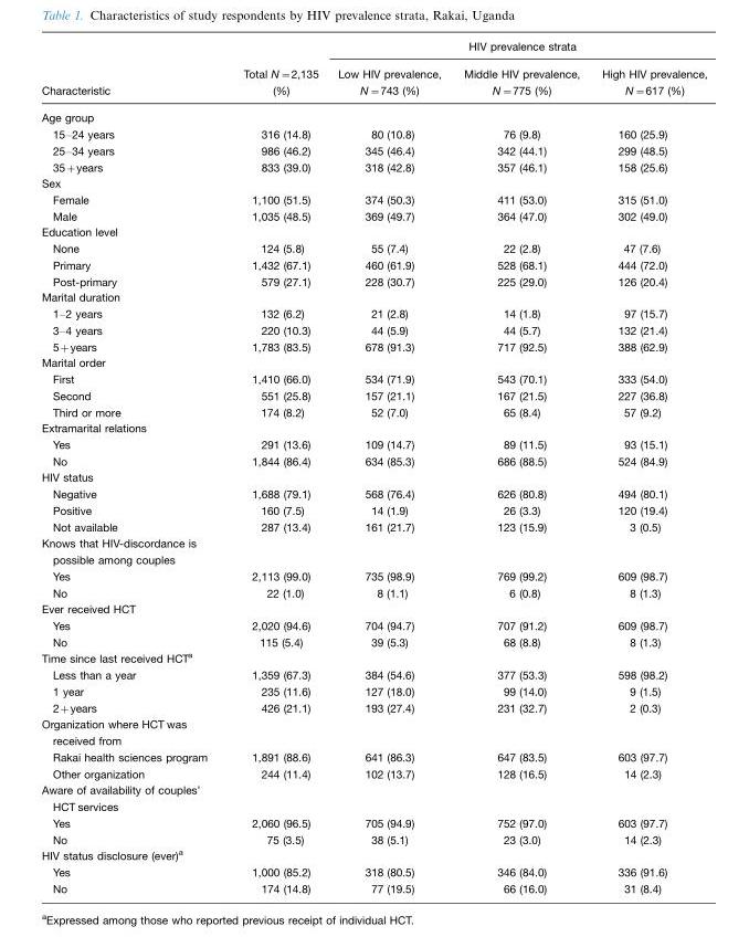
<table><thead><tr><td rowspan="2">Characteristic</td><td rowspan="2">Total N=2,135 (%)</td><td colspan="3">HIV prevalence strata</td></tr><tr><td>Low HIV prevalence, N=743 (%)</td><td>Middle HIV prevalence, N=775 (%)</td><td>High HIV prevalence, N=617 (%)</td></tr></thead><tbody><tr><td colspan="5">Age group</td></tr><tr><td>15–24 years</td><td>316 (14.8)</td><td>80 (10.8)</td><td>76 (9.8)</td><td>160 (25.9)</td></tr><tr><td>25–34 years</td><td>986 (46.2)</td><td>345 (46.4)</td><td>342 (44.1)</td><td>299 (48.5)</td></tr><tr><td>35+years</td><td>833 (39.0)</td><td>318 (42.8)</td><td>357 (46.1)</td><td>158 (25.6)</td></tr><tr><td colspan="5">Sex</td></tr><tr><td>Female</td><td>1,100 (51.5)</td><td>374 (50.3)</td><td>411 (53.0)</td><td>315 (51.0)</td></tr><tr><td>Male</td><td>1,035 (48.5)</td><td>369 (49.7)</td><td>364 (47.0)</td><td>302 (49.0)</td></tr><tr><td colspan="5">Education level</td></tr><tr><td>None</td><td>124 (5.8)</td><td>55 (7.4)</td><td>22 (2.8)</td><td>47 (7.6)</td></tr><tr><td>Primary</td><td>1,432 (67.1)</td><td>460 (61.9)</td><td>528 (68.1)</td><td>444 (72.0)</td></tr><tr><td>Post-primary</td><td>579 (27.1)</td><td>228 (30.7)</td><td>225 (29.0)</td><td>126 (20.4)</td></tr><tr><td colspan="5">Marital duration</td></tr><tr><td>1–2 years</td><td>132 (6.2)</td><td>21 (2.8)</td><td>14 (1.8)</td><td>97 (15.7)</td></tr><tr><td>3–4 years</td><td>220 (10.3)</td><td>44 (5.9)</td><td>44 (5.7)</td><td>132 (21.4)</td></tr><tr><td>5+years</td><td>1,783 (83.5)</td><td>678 (91.3)</td><td>717 (92.5)</td><td>388 (62.9)</td></tr><tr><td colspan="5">Marital order</td></tr><tr><td>First</td><td>1,410 (66.0)</td><td>534 (71.9)</td><td>543 (70.1)</td><td>333 (54.0)</td></tr><tr><td>Second</td><td>551 (25.8)</td><td>157 (21.1)</td><td>167 (21.5)</td><td>227 (36.8)</td></tr><tr><td>Third or more</td><td>174 (8.2)</td><td>52 (7.0)</td><td>65 (8.4)</td><td>57 (9.2)</td></tr><tr><td colspan="5">Extramarital relations</td></tr><tr><td>Yes</td><td>291 (13.6)</td><td>109 (14.7)</td><td>89 (11.5)</td><td>93 (15.1)</td></tr><tr><td>No</td><td>1,844 (86.4)</td><td>634 (85.3)</td><td>686 (88.5)</td><td>524 (84.9)</td></tr><tr><td colspan="5">HIV status</td></tr><tr><td>Negative</td><td>1,688 (79.1)</td><td>568 (76.4)</td><td>626 (80.8)</td><td>494 (80.1)</td></tr><tr><td>Positive</td><td>160 (7.5)</td><td>14 (1.9)</td><td>26 (3.3)</td><td>120 (19.4)</td></tr><tr><td>Not available</td><td>287 (13.4)</td><td>161 (21.7)</td><td>123 (15.9)</td><td>3 (0.5)</td></tr><tr><td colspan="5">Knows that HIV-discordance is possible among couples</td></tr><tr><td>Yes</td><td>2,113 (99.0)</td><td>735 (98.9)</td><td>769 (99.2)</td><td>609 (98.7)</td></tr><tr><td>No</td><td>22 (1.0)</td><td>8 (1.1)</td><td>6 (0.8)</td><td>8 (1.3)</td></tr><tr><td colspan="5">Ever received HCT</td></tr><tr><td>Yes</td><td>2,020 (94.6)</td><td>704 (94.7)</td><td>707 (91.2)</td><td>609 (98.7)</td></tr><tr><td>No</td><td>115 (5.4)</td><td>39 (5.3)</td><td>68 (8.8)</td><td>8 (1.3)</td></tr><tr><td colspan="5">Time since last received HCT<sup>a</sup></td></tr><tr><td>Less than a year</td><td>1,359 (67.3)</td><td>384 (54.6)</td><td>377 (53.3)</td><td>598 (98.2)</td></tr><tr><td>1 year</td><td>235 (11.6)</td><td>127 (18.0)</td><td>99 (14.0)</td><td>9 (1.5)</td></tr><tr><td>2+years</td><td>426 (21.1)</td><td>193 (27.4)</td><td>231 (32.7)</td><td>2 (0.3)</td></tr><tr><td colspan="5">Organization where HCT was received from</td></tr><tr><td>Rakai health sciences program</td><td>1,891 (88.6)</td><td>641 (86.3)</td><td>647 (83.5)</td><td>603 (97.7)</td></tr><tr><td>Other organization</td><td>244 (11.4)</td><td>102 (13.7)</td><td>128 (16.5)</td><td>14 (2.3)</td></tr><tr><td colspan="5">Aware of availability of couples’ HCT services</td></tr><tr><td>Yes</td><td>2,060 (96.5)</td><td>705 (94.9)</td><td>752 (97.0)</td><td>603 (97.7)</td></tr><tr><td>No</td><td>75 (3.5)</td><td>38 (5.1)</td><td>23 (3.0)</td><td>14 (2.3)</td></tr><tr><td colspan="5">HIV status disclosure (ever)<sup>a</sup></td></tr><tr><td>Yes</td><td>1,000 (85.2)</td><td>318 (80.5)</td><td>346 (84.0)</td><td>336 (91.6)</td></tr><tr><td>No</td><td>174 (14.8)</td><td>77 (19.5)</td><td>66 (16.0)</td><td>31 (8.4)</td></tr></tbody></table>